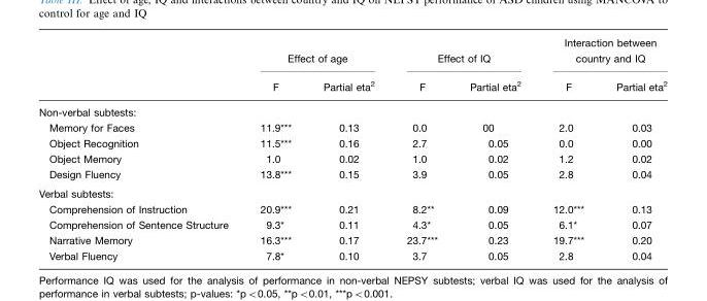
<table><thead><tr><td rowspan="2"></td><td colspan="2">Effect of age</td><td colspan="2">Effect of IQ</td><td colspan="2">Interaction between country and IQ</td></tr><tr><td>F</td><td>Partial eta<sup>2</sup></td><td>F</td><td>Partial eta<sup>2</sup></td><td>F</td><td>Partial eta<sup>2</sup></td></tr></thead><tbody><tr><td colspan="7">Non-verbal subtests:</td></tr><tr><td>Memory for Faces</td><td>11.9***</td><td>0.13</td><td>0.0</td><td>00</td><td>2.0</td><td>0.03</td></tr><tr><td>Object Recognition</td><td>11.5***</td><td>0.16</td><td>2.7</td><td>0.05</td><td>0.0</td><td>0.00</td></tr><tr><td>Object Memory</td><td>1.0</td><td>0.02</td><td>1.0</td><td>0.02</td><td>1.2</td><td>0.02</td></tr><tr><td>Design Fluency</td><td>13.8***</td><td>0.15</td><td>3.9</td><td>0.05</td><td>2.8</td><td>0.04</td></tr><tr><td colspan="7">Verbal subtests:</td></tr><tr><td>Comprehension of Instruction</td><td>20.9***</td><td>0.21</td><td>8.2**</td><td>0.09</td><td>12.0***</td><td>0.13</td></tr><tr><td>Comprehension of Sentence Structure</td><td>9.3*</td><td>0.11</td><td>4.3*</td><td>0.05</td><td>6.1*</td><td>0.07</td></tr><tr><td>Narrative Memory</td><td>16.3***</td><td>0.17</td><td>23.7***</td><td>0.23</td><td>19.7***</td><td>0.20</td></tr><tr><td>Verbal Fluency</td><td>7.8*</td><td>0.10</td><td>3.7</td><td>0.05</td><td>2.8</td><td>0.04</td></tr></tbody></table>